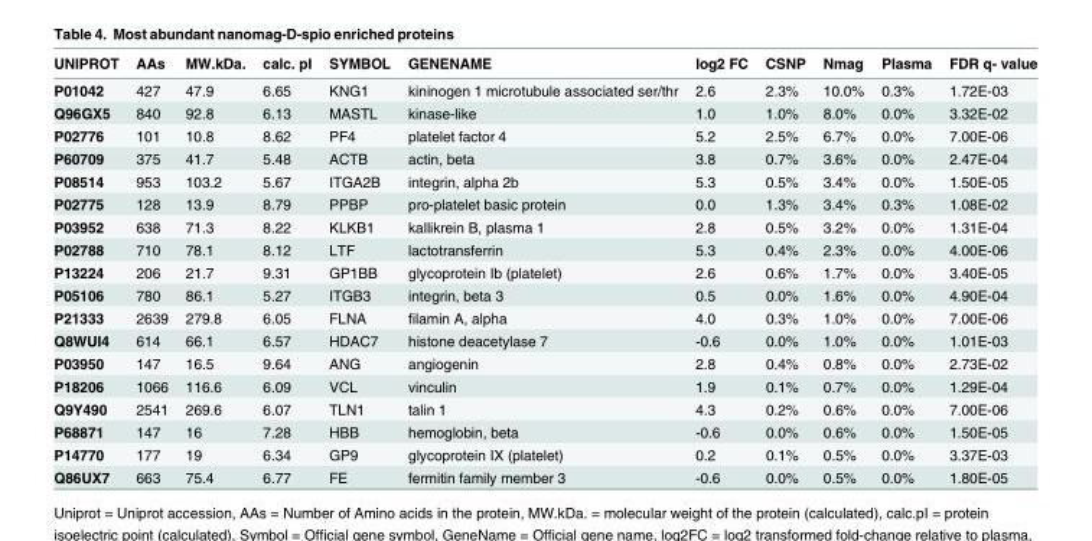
<table><thead><tr><td>UNIPROT</td><td>AAs</td><td>MW.kDa.</td><td>calc. pI</td><td>SYMBOL</td><td>GENENAME</td><td>log2 FC</td><td>CSNP</td><td>Nmag</td><td>Plasma</td><td>FDR q‐ value</td></tr></thead><tbody><tr><td>P01042</td><td>427</td><td>47.9</td><td>6.65</td><td>KNG1</td><td>kininogen 1 microtubule associated ser/thr</td><td>2.6</td><td>2.3%</td><td>10.0%</td><td>0.3%</td><td>1.72E‐03</td></tr><tr><td>Q96GX5</td><td>840</td><td>92.8</td><td>6.13</td><td>MASTL</td><td>kinase‐like</td><td>1.0</td><td>1.0%</td><td>8.0%</td><td>0.0%</td><td>3.32E‐02</td></tr><tr><td>P02776</td><td>101</td><td>10.8</td><td>8.62</td><td>PF4</td><td>platelet factor 4</td><td>5.2</td><td>2.5%</td><td>6.7%</td><td>0.0%</td><td>7.00E‐06</td></tr><tr><td>P60709</td><td>375</td><td>41.7</td><td>5.48</td><td>ACTB</td><td>actin, beta</td><td>3.8</td><td>0.7%</td><td>3.6%</td><td>0.0%</td><td>2.47E‐04</td></tr><tr><td>P08514</td><td>953</td><td>103.2</td><td>5.67</td><td>ITGA2B</td><td>integrin, alpha 2b</td><td>5.3</td><td>0.5%</td><td>3.4%</td><td>0.0%</td><td>1.50E‐05</td></tr><tr><td>P02775</td><td>128</td><td>13.9</td><td>8.79</td><td>PPBP</td><td>pro‐platelet basic protein</td><td>0.0</td><td>1.3%</td><td>3.4%</td><td>0.3%</td><td>1.08E‐02</td></tr><tr><td>P03952</td><td>638</td><td>71.3</td><td>8.22</td><td>KLKB1</td><td>kallikrein B, plasma 1</td><td>2.8</td><td>0.5%</td><td>3.2%</td><td>0.0%</td><td>1.31E‐04</td></tr><tr><td>P02788</td><td>710</td><td>78.1</td><td>8.12</td><td>LTF</td><td>lactotransferrin</td><td>5.3</td><td>0.4%</td><td>2.3%</td><td>0.0%</td><td>4.00E‐06</td></tr><tr><td>P13224</td><td>206</td><td>21.7</td><td>9.31</td><td>GP1BB</td><td>glycoprotein Ib (platelet)</td><td>2.6</td><td>0.6%</td><td>1.7%</td><td>0.0%</td><td>3.40E‐05</td></tr><tr><td>P05106</td><td>780</td><td>86.1</td><td>5.27</td><td>ITGB3</td><td>integrin, beta 3</td><td>0.5</td><td>0.0%</td><td>1.6%</td><td>0.0%</td><td>4.90E‐04</td></tr><tr><td>P21333</td><td>2639</td><td>279.8</td><td>6.05</td><td>FLNA</td><td>filamin A, alpha</td><td>4.0</td><td>0.3%</td><td>1.0%</td><td>0.0%</td><td>7.00E‐06</td></tr><tr><td>Q8WUI4</td><td>614</td><td>66.1</td><td>6.57</td><td>HDAC7</td><td>histone deacetylase 7</td><td>‐0.6</td><td>0.0%</td><td>1.0%</td><td>0.0%</td><td>1.01E‐03</td></tr><tr><td>P03950</td><td>147</td><td>16.5</td><td>9.64</td><td>ANG</td><td>angiogenin</td><td>2.8</td><td>0.4%</td><td>0.8%</td><td>0.0%</td><td>2.73E‐02</td></tr><tr><td>P18206</td><td>1066</td><td>116.6</td><td>6.09</td><td>VCL</td><td>vinculin</td><td>1.9</td><td>0.1%</td><td>0.7%</td><td>0.0%</td><td>1.29E‐04</td></tr><tr><td>Q9Y490</td><td>2541</td><td>269.6</td><td>6.07</td><td>TLN1</td><td>talin 1</td><td>4.3</td><td>0.2%</td><td>0.6%</td><td>0.0%</td><td>7.00E‐06</td></tr><tr><td>P68871</td><td>147</td><td>16</td><td>7.28</td><td>HBB</td><td>hemoglobin, beta</td><td>‐0.6</td><td>0.0%</td><td>0.6%</td><td>0.0%</td><td>1.50E‐05</td></tr><tr><td>P14770</td><td>177</td><td>19</td><td>6.34</td><td>GP9</td><td>glycoprotein IX (platelet)</td><td>0.2</td><td>0.1%</td><td>0.5%</td><td>0.0%</td><td>3.37E‐03</td></tr><tr><td>Q86UX7</td><td>663</td><td>75.4</td><td>6.77</td><td>FE</td><td>fermitin family member 3</td><td>‐0.6</td><td>0.0%</td><td>0.5%</td><td>0.0%</td><td>1.80E‐05</td></tr></tbody></table>